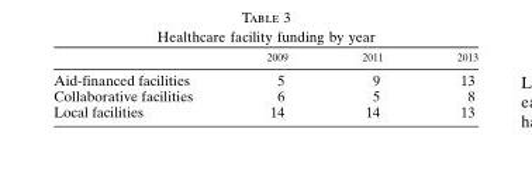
<table><thead><tr><td></td><td>2009</td><td>2011</td><td>2013</td></tr></thead><tbody><tr><td>Aid-financed facilities</td><td>5</td><td>9</td><td>13</td></tr><tr><td>Collaborative facilities</td><td>6</td><td>5</td><td>8</td></tr><tr><td>Local facilities</td><td>14</td><td>14</td><td>13</td></tr></tbody></table>